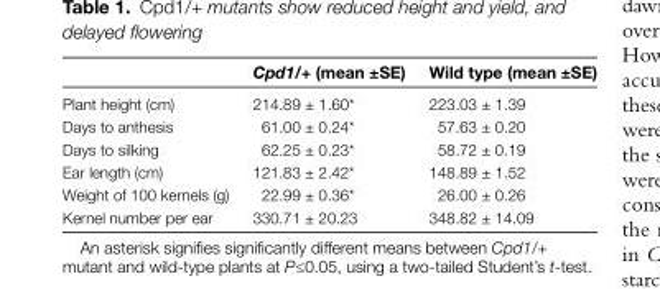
<table><thead><tr><td></td><td>Cpd1/+ (mean ±SE)</td><td>Wild type (mean ±SE)</td></tr></thead><tbody><tr><td>Plant height (cm)</td><td>214.89 ± 1.60*</td><td>223.03 ± 1.39</td></tr><tr><td>Days to anthesis</td><td>61.00 ± 0.24*</td><td>57.63 ± 0.20</td></tr><tr><td>Days to silking</td><td>62.25 ± 0.23*</td><td>58.72 ± 0.19</td></tr><tr><td>Ear length (cm)</td><td>121.83 ± 2.42*</td><td>148.89 ± 1.52</td></tr><tr><td>Weight of 100 kernels (g)</td><td>22.99 ± 0.36*</td><td>26.00 ± 0.26</td></tr><tr><td>Kernel number per ear</td><td>330.71 ± 20.23</td><td>348.82 ± 14.09</td></tr></tbody></table>